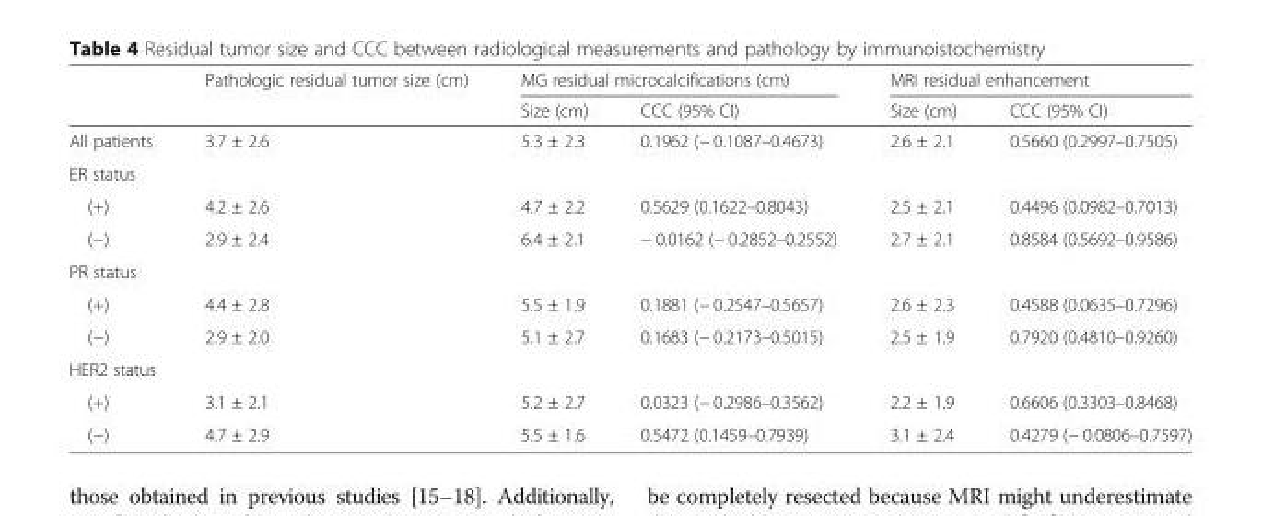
<table><thead><tr><td rowspan="2"></td><td rowspan="2">Pathologic residual tumor size (cm)</td><td colspan="2">MG residual microcalcifications (cm)</td><td colspan="2">MRI residual enhancement</td></tr><tr><td>Size (cm)</td><td>CCC (95% CI)</td><td>Size (cm)</td><td>CCC (95% CI)</td></tr></thead><tbody><tr><td>All patients</td><td>3.7 ± 2.6</td><td>5.3 ± 2.3</td><td>0.1962 (− 0.1087–0.4673)</td><td>2.6 ± 2.1</td><td>0.5660 (0.2997–0.7505)</td></tr><tr><td colspan="6">ER status</td></tr><tr><td>(+)</td><td>4.2 ± 2.6</td><td>4.7 ± 2.2</td><td>0.5629 (0.1622–0.8043)</td><td>2.5 ± 2.1</td><td>0.4496 (0.0982–0.7013)</td></tr><tr><td>(−)</td><td>2.9 ± 2.4</td><td>6.4 ± 2.1</td><td>− 0.0162 (− 0.2852–0.2552)</td><td>2.7 ± 2.1</td><td>0.8584 (0.5692–0.9586)</td></tr><tr><td colspan="6">PR status</td></tr><tr><td>(+)</td><td>4.4 ± 2.8</td><td>5.5 ± 1.9</td><td>0.1881 (− 0.2547–0.5657)</td><td>2.6 ± 2.3</td><td>0.4588 (0.0635–0.7296)</td></tr><tr><td>(−)</td><td>2.9 ± 2.0</td><td>5.1 ± 2.7</td><td>0.1683 (− 0.2173–0.5015)</td><td>2.5 ± 1.9</td><td>0.7920 (0.4810–0.9260)</td></tr><tr><td colspan="6">HER2 status</td></tr><tr><td>(+)</td><td>3.1 ± 2.1</td><td>5.2 ± 2.7</td><td>0.0323 (− 0.2986–0.3562)</td><td>2.2 ± 1.9</td><td>0.6606 (0.3303–0.8468)</td></tr><tr><td>(−)</td><td>4.7 ± 2.9</td><td>5.5 ± 1.6</td><td>0.5472 (0.1459–0.7939)</td><td>3.1 ± 2.4</td><td>0.4279 (− 0.0806–0.7597)</td></tr></tbody></table>